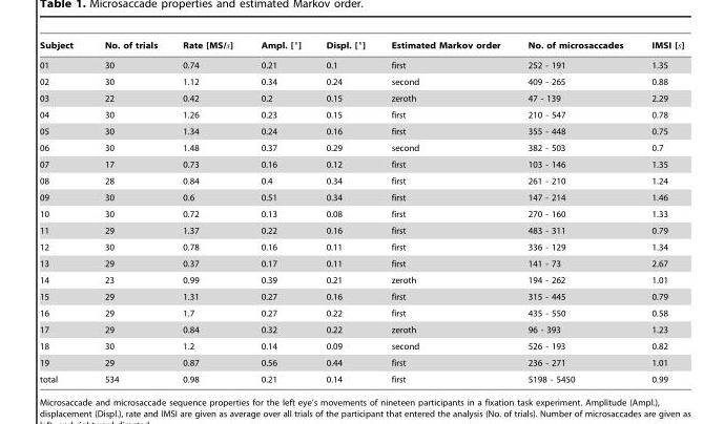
<table><thead><tr><td>Subject</td><td>No. of trials</td><td>Rate [MS/s]</td><td>Ampl. [°]</td><td>Displ. [°]</td><td>Estimated Markov order</td><td>No. of microsaccades</td><td>IMSI [s]</td></tr></thead><tbody><tr><td>01</td><td>30</td><td>0.74</td><td>0.21</td><td>0.1</td><td>first</td><td>252 - 191</td><td>1.35</td></tr><tr><td>02</td><td>30</td><td>1.12</td><td>0.34</td><td>0.24</td><td>second</td><td>409 - 265</td><td>0.88</td></tr><tr><td>03</td><td>22</td><td>0.42</td><td>0.2</td><td>0.15</td><td>zeroth</td><td>47 - 139</td><td>2.29</td></tr><tr><td>04</td><td>30</td><td>1.26</td><td>0.23</td><td>0.15</td><td>first</td><td>210 - 547</td><td>0.78</td></tr><tr><td>05</td><td>30</td><td>1.34</td><td>0.24</td><td>0.16</td><td>first</td><td>355 - 448</td><td>0.75</td></tr><tr><td>06</td><td>30</td><td>1.48</td><td>0.37</td><td>0.29</td><td>second</td><td>382 - 503</td><td>0.7</td></tr><tr><td>07</td><td>17</td><td>0.73</td><td>0.16</td><td>0.12</td><td>first</td><td>103 - 146</td><td>1.35</td></tr><tr><td>08</td><td>28</td><td>0.84</td><td>0.4</td><td>0.34</td><td>first</td><td>261 - 210</td><td>1.24</td></tr><tr><td>09</td><td>30</td><td>0.6</td><td>0.51</td><td>0.34</td><td>first</td><td>147 - 214</td><td>1.46</td></tr><tr><td>10</td><td>30</td><td>0.72</td><td>0.13</td><td>0.08</td><td>first</td><td>270 - 160</td><td>1.33</td></tr><tr><td>11</td><td>29</td><td>1.37</td><td>0.22</td><td>0.16</td><td>first</td><td>483 - 311</td><td>0.79</td></tr><tr><td>12</td><td>30</td><td>0.78</td><td>0.16</td><td>0.11</td><td>first</td><td>336 - 129</td><td>1.34</td></tr><tr><td>13</td><td>29</td><td>0.37</td><td>0.17</td><td>0.11</td><td>first</td><td>141 - 73</td><td>2.67</td></tr><tr><td>14</td><td>23</td><td>0.99</td><td>0.39</td><td>0.21</td><td>zeroth</td><td>194 - 262</td><td>1.01</td></tr><tr><td>15</td><td>29</td><td>1.31</td><td>0.27</td><td>0.16</td><td>first</td><td>315 - 445</td><td>0.79</td></tr><tr><td>16</td><td>29</td><td>1.7</td><td>0.27</td><td>0.22</td><td>first</td><td>435 - 550</td><td>0.58</td></tr><tr><td>17</td><td>29</td><td>0.84</td><td>0.32</td><td>0.22</td><td>zeroth</td><td>96 - 393</td><td>1.23</td></tr><tr><td>18</td><td>30</td><td>1.2</td><td>0.14</td><td>0.09</td><td>second</td><td>526 - 193</td><td>0.82</td></tr><tr><td>19</td><td>29</td><td>0.87</td><td>0.56</td><td>0.44</td><td>first</td><td>236 - 271</td><td>1.01</td></tr><tr><td>total</td><td>534</td><td>0.98</td><td>0.21</td><td>0.14</td><td>first</td><td>5198 - 5450</td><td>0.99</td></tr></tbody></table>